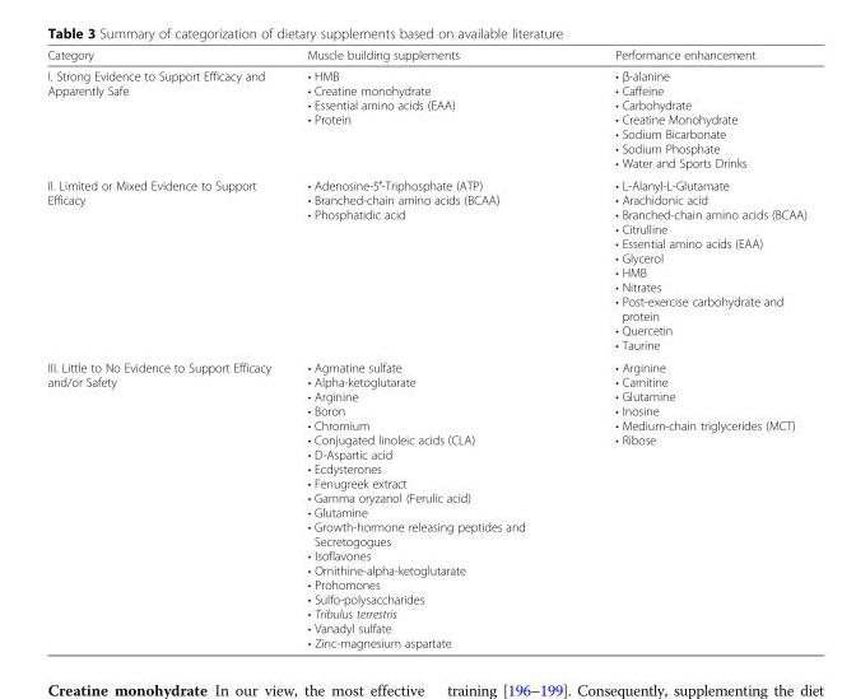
<table><thead><tr><td>Category</td><td>Muscle building supplements</td><td>Performance enhancement</td></tr></thead><tbody><tr><td>I. Strong Evidence to Support Efficacy and Apparently Safe</td><td>• HMB • Creatine monohydrate • Essential amino acids (EAA) • Protein</td><td>• β-alanine • Caffeine • Carbohydrate • Creatine Monohydrate • Sodium Bicarbonate • Sodium Phosphate • Water and Sports Drinks</td></tr><tr><td>II. Limited or Mixed Evidence to Support Efficacy</td><td>• Adenosine-5′-Triphosphate (ATP) • Branched-chain amino acids (BCAA) • Phosphatidic acid</td><td>• L-Alanyl-L-Glutamate • Arachidonic acid • Branched-chain amino acids (BCAA) • Citrulline • Essential amino acids (EAA) • Glycerol • HMB • Nitrates • Post-exercise carbohydrate and protein • Quercetin • Taurine</td></tr><tr><td>III. Little to No Evidence to Support Efficacy and/or Safety</td><td>• Agmatine sulfate • Alpha-ketoglutarate • Arginine • Boron • Chromium • Conjugated linoleic acids (CLA) • D-Aspartic acid • Ecdysterones • Fenugreek extract • Gamma oryzanol (Ferulic acid) • Glutamine • Growth-hormone releasing peptides and Secretogogues • Isoflavones • Ornithine-alpha-ketoglutarate • Prohomones • Sulfo-polysaccharides • Tribulus terrestris • Vanadyl sulfate • Zinc-magnesium aspartate</td><td>• Arginine • Carnitine • Glutamine • Inosine • Medium-chain triglycerides (MCT) • Ribose</td></tr></tbody></table>